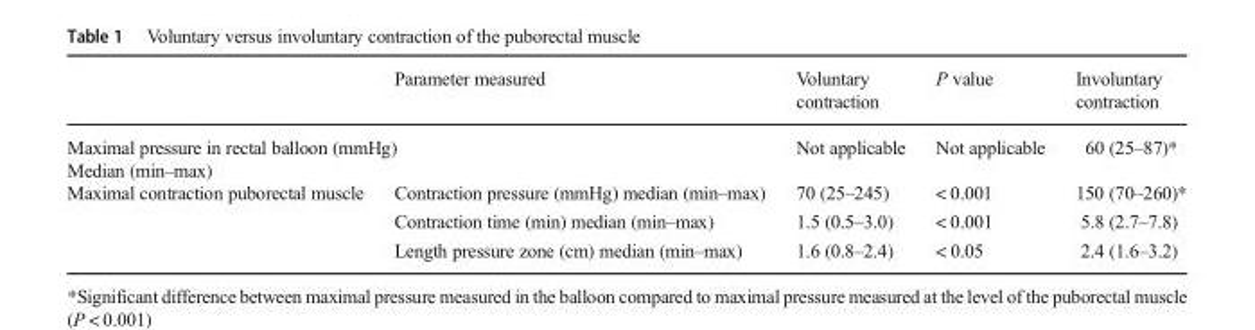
<table><thead><tr><td></td><td>Parameter measured</td><td>Voluntary contraction</td><td>P value</td><td>Involuntary contraction</td></tr></thead><tbody><tr><td colspan="2">Maximal pressure in rectal balloon (mmHg) Median (min–max)</td><td>Not applicable</td><td>Not applicable</td><td>60 (25–87)*</td></tr><tr><td rowspan="3">Maximal contraction puborectal muscle</td><td>Contraction pressure (mmHg) median (min–max)</td><td>70 (25–245)</td><td>&lt; 0.001</td><td>150 (70–260)*</td></tr><tr><td>Contraction time (min) median (min–max)</td><td>1.5 (0.5–3.0)</td><td>&lt; 0.001</td><td>5.8 (2.7–7.8)</td></tr><tr><td>Length pressure zone (cm) median (min–max)</td><td>1.6 (0.8–2.4)</td><td>&lt; 0.05</td><td>2.4 (1.6–3.2)</td></tr></tbody></table>